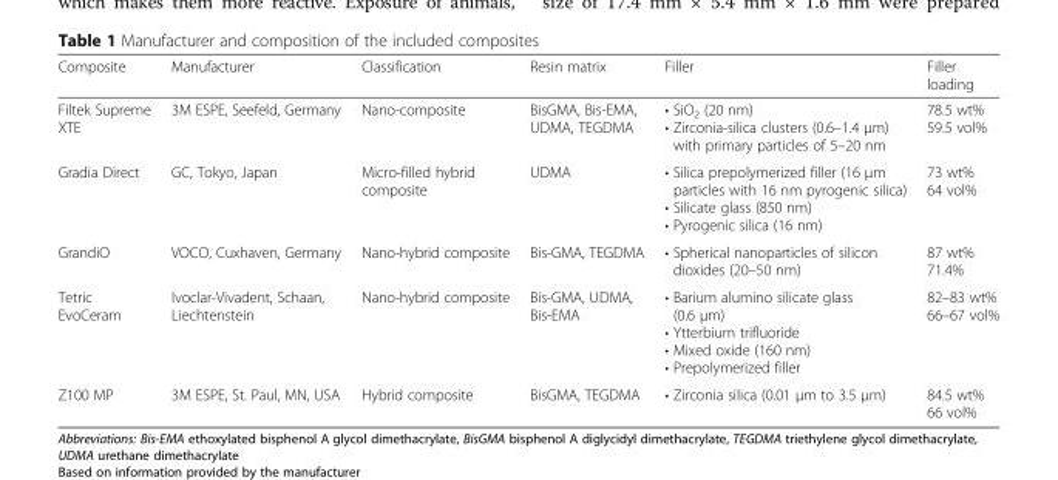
<table><thead><tr><td>Composite</td><td>Manufacturer</td><td>Classification</td><td>Resin matrix</td><td>Filler</td><td>Filler loading</td></tr></thead><tbody><tr><td>Filtek Supreme XTE</td><td>3M ESPE, Seefeld, Germany</td><td>Nano-composite</td><td>BisGMA, Bis-EMA, UDMA, TEGDMA</td><td>• SiO<sub>2</sub> (20 nm) • Zirconia-silica clusters (0.6–1.4 μm) with primary particles of 5–20 nm</td><td>78.5 wt% 59.5 vol%</td></tr><tr><td>Gradia Direct</td><td>GC, Tokyo, Japan</td><td>Micro-filled hybrid composite</td><td>UDMA</td><td>• Silica prepolymerized filler (16 μm particles with 16 nm pyrogenic silica) • Silicate glass (850 nm) • Pyrogenic silica (16 nm)</td><td>73 wt% 64 vol%</td></tr><tr><td>GrandiO</td><td>VOCO, Cuxhaven, Germany</td><td>Nano-hybrid composite</td><td>Bis-GMA, TEGDMA</td><td>• Spherical nanoparticles of silicon dioxides (20–50 nm)</td><td>87 wt% 71.4%</td></tr><tr><td>Tetric EvoCeram</td><td>Ivoclar-Vivadent, Schaan, Liechtenstein</td><td>Nano-hybrid composite</td><td>Bis-GMA, UDMA, Bis-EMA</td><td>• Barium alumino silicate glass (0.6 μm) • Ytterbium trifluoride • Mixed oxide (160 nm) • Prepolymerized filler</td><td>82–83 wt% 66–67 vol%</td></tr><tr><td>Z100 MP</td><td>3M ESPE, St. Paul, MN, USA</td><td>Hybrid composite</td><td>BisGMA, TEGDMA</td><td>• Zirconia silica (0.01 μm to 3.5 μm)</td><td>84.5 wt% 66 vol%</td></tr></tbody></table>